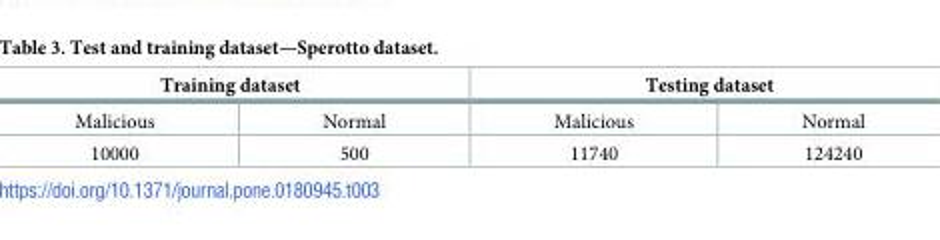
<table><thead><tr><td colspan="2">Training dataset</td><td colspan="2">Testing dataset</td></tr><tr><td>Malicious</td><td>Normal</td><td>Malicious</td><td>Normal</td></tr></thead><tbody><tr><td>10000</td><td>500</td><td>11740</td><td>124240</td></tr></tbody></table>